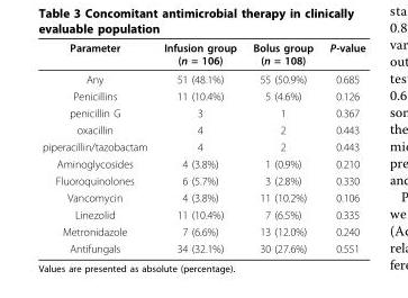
<table><thead><tr><td>Parameter</td><td>Infusion group (n = 106)</td><td>Bolus group (n = 108)</td><td>P-value</td></tr></thead><tbody><tr><td>Any</td><td>51 (48.1%)</td><td>55 (50.9%)</td><td>0.685</td></tr><tr><td>Penicillins</td><td>11 (10.4%)</td><td>5 (4.6%)</td><td>0.126</td></tr><tr><td>penicillin G</td><td>3</td><td>1</td><td>0.367</td></tr><tr><td>oxacillin</td><td>4</td><td>2</td><td>0.443</td></tr><tr><td>piperacillin/tazobactam</td><td>4</td><td>2</td><td>0.443</td></tr><tr><td>Aminoglycosides</td><td>4 (3.8%)</td><td>1 (0.9%)</td><td>0.210</td></tr><tr><td>Fluoroquinolones</td><td>6 (5.7%)</td><td>3 (2.8%)</td><td>0.330</td></tr><tr><td>Vancomycin</td><td>4 (3.8%)</td><td>11 (10.2%)</td><td>0.106</td></tr><tr><td>Linezolid</td><td>11 (10.4%)</td><td>7 (6.5%)</td><td>0.335</td></tr><tr><td>Metronidazole</td><td>7 (6.6%)</td><td>13 (12.0%)</td><td>0.240</td></tr><tr><td>Antifungals</td><td>34 (32.1%)</td><td>30 (27.6%)</td><td>0.551</td></tr></tbody></table>